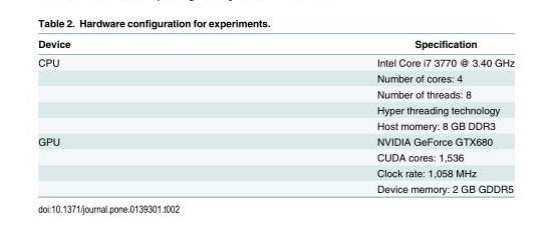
<table><thead><tr><td>Device</td><td>Specification</td></tr></thead><tbody><tr><td rowspan="5">CPU</td><td>Intel Core i7 3770 @ 3.40 GHz</td></tr><tr><td>Number of cores: 4</td></tr><tr><td>Number of threads: 8</td></tr><tr><td>Hyper threading technology</td></tr><tr><td>Host momery: 8 GB DDR3</td></tr><tr><td rowspan="4">GPU</td><td>NVIDIA GeForce GTX680</td></tr><tr><td>CUDA cores: 1,536</td></tr><tr><td>Clock rate: 1,058 MHz</td></tr><tr><td>Device memory: 2 GB GDDR5</td></tr></tbody></table>